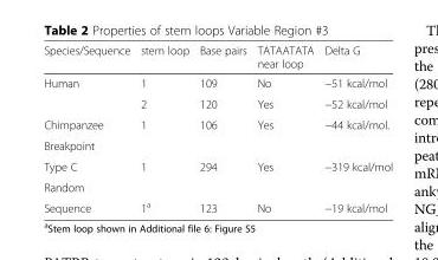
<table><thead><tr><td>Species/Sequence</td><td>stem loop</td><td>Base pairs</td><td>TATAATATA near loop</td><td>Delta G</td></tr></thead><tbody><tr><td rowspan="2">Human</td><td>1</td><td>109</td><td>No</td><td>−51 kcal/mol</td></tr><tr><td>2</td><td>120</td><td>Yes</td><td>−52 kcal/mol</td></tr><tr><td>Chimpanzee</td><td>1</td><td>106</td><td>Yes</td><td>−44 kcal/mol.</td></tr><tr><td colspan="5">Breakpoint</td></tr><tr><td>Type C</td><td>1</td><td>294</td><td>Yes</td><td>−319 kcal/mol</td></tr><tr><td colspan="5">Random</td></tr><tr><td>Sequence</td><td>1<sup>a</sup></td><td>123</td><td>No</td><td>−19 kcal/mol</td></tr></tbody></table>